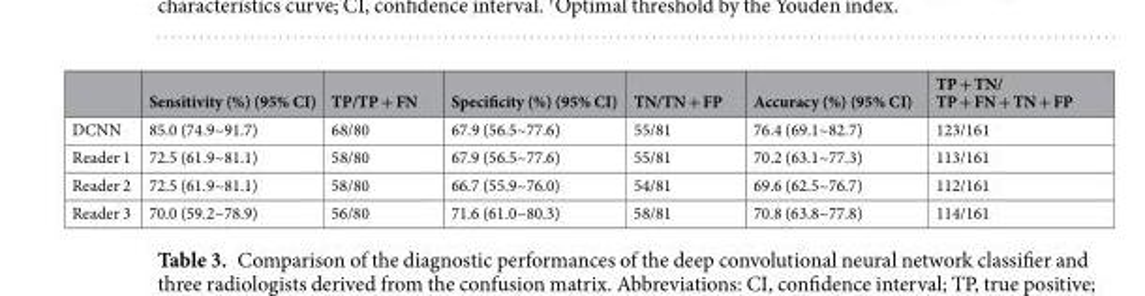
<table><thead><tr><td></td><td>Sensitivity (%) (95% CI)</td><td>TP/TP + FN</td><td>Specificity (%) (95% CI)</td><td>TN/TN + FP</td><td>Accuracy (%) (95% CI)</td><td>TP + TN/ TP + FN + TN + FP</td></tr></thead><tbody><tr><td>DCNN</td><td>85.0 (74.9~91.7)</td><td>68/80</td><td>67.9 (56.5~77.6)</td><td>55/81</td><td>76.4 (69.1~82.7)</td><td>123/161</td></tr><tr><td>Reader 1</td><td>72.5 (61.9~81.1)</td><td>58/80</td><td>67.9 (56.5~77.6)</td><td>55/81</td><td>70.2 (63.1~77.3)</td><td>113/161</td></tr><tr><td>Reader 2</td><td>72.5 (61.9~81.1)</td><td>58/80</td><td>66.7 (55.9~76.0)</td><td>54/81</td><td>69.6 (62.5~76.7)</td><td>112/161</td></tr><tr><td>Reader 3</td><td>70.0 (59.2~78.9)</td><td>56/80</td><td>71.6 (61.0~80.3)</td><td>58/81</td><td>70.8 (63.8~77.8)</td><td>114/161</td></tr></tbody></table>